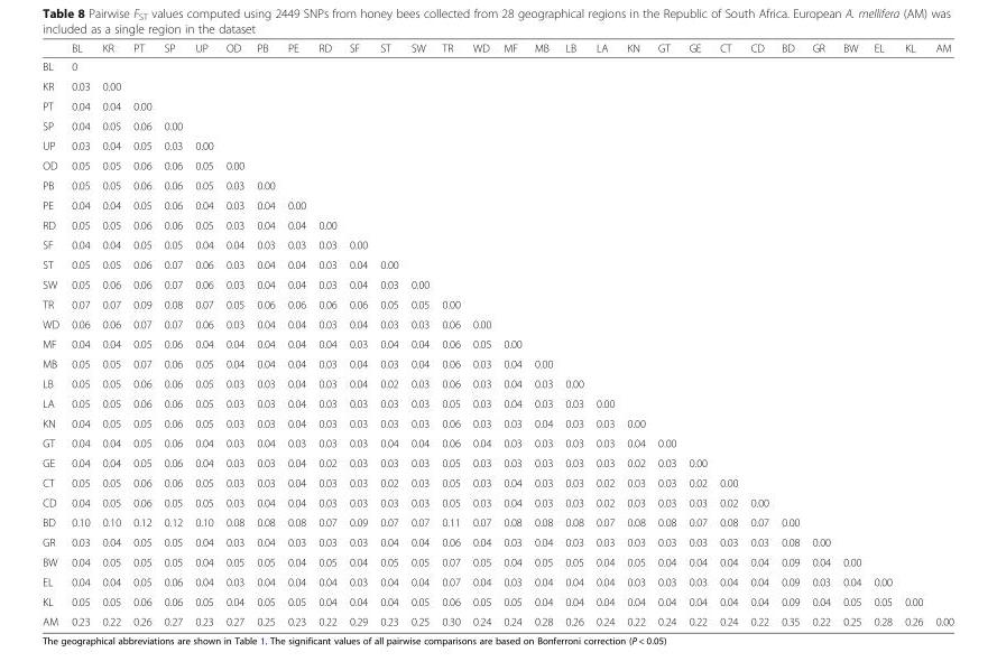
<table><thead><tr><td></td><td>BL</td><td>KR</td><td>PT</td><td>SP</td><td>UP</td><td>OD</td><td>PB</td><td>PE</td><td>RD</td><td>SF</td><td>ST</td><td>SW</td><td>TR</td><td>WD</td><td>MF</td><td>MB</td><td>LB</td><td>LA</td><td>KN</td><td>GT</td><td>GE</td><td>CT</td><td>CD</td><td>BD</td><td>GR</td><td>BW</td><td>EL</td><td>KL</td><td>AM</td></tr></thead><tbody><tr><td>BL</td><td>0</td><td></td><td></td><td></td><td></td><td></td><td></td><td></td><td></td><td></td><td></td><td></td><td></td><td></td><td></td><td></td><td></td><td></td><td></td><td></td><td></td><td></td><td></td><td></td><td></td><td></td><td></td><td></td><td></td></tr><tr><td>KR</td><td>0.03</td><td>0.00</td><td></td><td></td><td></td><td></td><td></td><td></td><td></td><td></td><td></td><td></td><td></td><td></td><td></td><td></td><td></td><td></td><td></td><td></td><td></td><td></td><td></td><td></td><td></td><td></td><td></td><td></td><td></td></tr><tr><td>PT</td><td>0.04</td><td>0.04</td><td>0.00</td><td></td><td></td><td></td><td></td><td></td><td></td><td></td><td></td><td></td><td></td><td></td><td></td><td></td><td></td><td></td><td></td><td></td><td></td><td></td><td></td><td></td><td></td><td></td><td></td><td></td><td></td></tr><tr><td>SP</td><td>0.04</td><td>0.05</td><td>0.06</td><td>0.00</td><td></td><td></td><td></td><td></td><td></td><td></td><td></td><td></td><td></td><td></td><td></td><td></td><td></td><td></td><td></td><td></td><td></td><td></td><td></td><td></td><td></td><td></td><td></td><td></td><td></td></tr><tr><td>UP</td><td>0.03</td><td>0.04</td><td>0.05</td><td>0.03</td><td>0.00</td><td></td><td></td><td></td><td></td><td></td><td></td><td></td><td></td><td></td><td></td><td></td><td></td><td></td><td></td><td></td><td></td><td></td><td></td><td></td><td></td><td></td><td></td><td></td><td></td></tr><tr><td>OD</td><td>0.05</td><td>0.05</td><td>0.06</td><td>0.06</td><td>0.05</td><td>0.00</td><td></td><td></td><td></td><td></td><td></td><td></td><td></td><td></td><td></td><td></td><td></td><td></td><td></td><td></td><td></td><td></td><td></td><td></td><td></td><td></td><td></td><td></td><td></td></tr><tr><td>PB</td><td>0.05</td><td>0.05</td><td>0.06</td><td>0.06</td><td>0.05</td><td>0.03</td><td>0.00</td><td></td><td></td><td></td><td></td><td></td><td></td><td></td><td></td><td></td><td></td><td></td><td></td><td></td><td></td><td></td><td></td><td></td><td></td><td></td><td></td><td></td><td></td></tr><tr><td>PE</td><td>0.04</td><td>0.04</td><td>0.05</td><td>0.06</td><td>0.04</td><td>0.03</td><td>0.04</td><td>0.00</td><td></td><td></td><td></td><td></td><td></td><td></td><td></td><td></td><td></td><td></td><td></td><td></td><td></td><td></td><td></td><td></td><td></td><td></td><td></td><td></td><td></td></tr><tr><td>RD</td><td>0.05</td><td>0.05</td><td>0.06</td><td>0.06</td><td>0.05</td><td>0.03</td><td>0.04</td><td>0.04</td><td>0.00</td><td></td><td></td><td></td><td></td><td></td><td></td><td></td><td></td><td></td><td></td><td></td><td></td><td></td><td></td><td></td><td></td><td></td><td></td><td></td><td></td></tr><tr><td>SF</td><td>0.04</td><td>0.04</td><td>0.05</td><td>0.05</td><td>0.04</td><td>0.04</td><td>0.03</td><td>0.03</td><td>0.03</td><td>0.00</td><td></td><td></td><td></td><td></td><td></td><td></td><td></td><td></td><td></td><td></td><td></td><td></td><td></td><td></td><td></td><td></td><td></td><td></td><td></td></tr><tr><td>ST</td><td>0.05</td><td>0.05</td><td>0.06</td><td>0.07</td><td>0.06</td><td>0.03</td><td>0.04</td><td>0.04</td><td>0.03</td><td>0.04</td><td>0.00</td><td></td><td></td><td></td><td></td><td></td><td></td><td></td><td></td><td></td><td></td><td></td><td></td><td></td><td></td><td></td><td></td><td></td><td></td></tr><tr><td>SW</td><td>0.05</td><td>0.06</td><td>0.06</td><td>0.07</td><td>0.06</td><td>0.03</td><td>0.04</td><td>0.04</td><td>0.03</td><td>0.04</td><td>0.03</td><td>0.00</td><td></td><td></td><td></td><td></td><td></td><td></td><td></td><td></td><td></td><td></td><td></td><td></td><td></td><td></td><td></td><td></td><td></td></tr><tr><td>TR</td><td>0.07</td><td>0.07</td><td>0.09</td><td>0.08</td><td>0.07</td><td>0.05</td><td>0.06</td><td>0.06</td><td>0.06</td><td>0.06</td><td>0.05</td><td>0.05</td><td>0.00</td><td></td><td></td><td></td><td></td><td></td><td></td><td></td><td></td><td></td><td></td><td></td><td></td><td></td><td></td><td></td><td></td></tr><tr><td>WD</td><td>0.06</td><td>0.06</td><td>0.07</td><td>0.07</td><td>0.06</td><td>0.03</td><td>0.04</td><td>0.04</td><td>0.03</td><td>0.04</td><td>0.03</td><td>0.03</td><td>0.06</td><td>0.00</td><td></td><td></td><td></td><td></td><td></td><td></td><td></td><td></td><td></td><td></td><td></td><td></td><td></td><td></td><td></td></tr><tr><td>MF</td><td>0.04</td><td>0.04</td><td>0.05</td><td>0.06</td><td>0.04</td><td>0.04</td><td>0.04</td><td>0.04</td><td>0.04</td><td>0.03</td><td>0.04</td><td>0.04</td><td>0.06</td><td>0.05</td><td>0.00</td><td></td><td></td><td></td><td></td><td></td><td></td><td></td><td></td><td></td><td></td><td></td><td></td><td></td><td></td></tr><tr><td>MB</td><td>0.05</td><td>0.05</td><td>0.07</td><td>0.06</td><td>0.05</td><td>0.04</td><td>0.04</td><td>0.04</td><td>0.03</td><td>0.04</td><td>0.03</td><td>0.04</td><td>0.06</td><td>0.03</td><td>0.04</td><td>0.00</td><td></td><td></td><td></td><td></td><td></td><td></td><td></td><td></td><td></td><td></td><td></td><td></td><td></td></tr><tr><td>LB</td><td>0.05</td><td>0.05</td><td>0.06</td><td>0.06</td><td>0.05</td><td>0.03</td><td>0.03</td><td>0.04</td><td>0.03</td><td>0.04</td><td>0.02</td><td>0.03</td><td>0.06</td><td>0.03</td><td>0.04</td><td>0.03</td><td>0.00</td><td></td><td></td><td></td><td></td><td></td><td></td><td></td><td></td><td></td><td></td><td></td><td></td></tr><tr><td>LA</td><td>0.05</td><td>0.05</td><td>0.06</td><td>0.06</td><td>0.05</td><td>0.03</td><td>0.03</td><td>0.04</td><td>0.03</td><td>0.03</td><td>0.03</td><td>0.03</td><td>0.05</td><td>0.03</td><td>0.04</td><td>0.03</td><td>0.03</td><td>0.00</td><td></td><td></td><td></td><td></td><td></td><td></td><td></td><td></td><td></td><td></td><td></td></tr><tr><td>KN</td><td>0.04</td><td>0.05</td><td>0.05</td><td>0.06</td><td>0.05</td><td>0.03</td><td>0.03</td><td>0.04</td><td>0.03</td><td>0.03</td><td>0.03</td><td>0.03</td><td>0.06</td><td>0.03</td><td>0.03</td><td>0.04</td><td>0.03</td><td>0.03</td><td>0.00</td><td></td><td></td><td></td><td></td><td></td><td></td><td></td><td></td><td></td><td></td></tr><tr><td>GT</td><td>0.04</td><td>0.04</td><td>0.05</td><td>0.06</td><td>0.04</td><td>0.03</td><td>0.04</td><td>0.03</td><td>0.03</td><td>0.03</td><td>0.04</td><td>0.04</td><td>0.06</td><td>0.04</td><td>0.03</td><td>0.03</td><td>0.03</td><td>0.03</td><td>0.04</td><td>0.00</td><td></td><td></td><td></td><td></td><td></td><td></td><td></td><td></td><td></td></tr><tr><td>GE</td><td>0.04</td><td>0.04</td><td>0.05</td><td>0.06</td><td>0.04</td><td>0.03</td><td>0.03</td><td>0.04</td><td>0.02</td><td>0.03</td><td>0.03</td><td>0.03</td><td>0.05</td><td>0.03</td><td>0.03</td><td>0.03</td><td>0.03</td><td>0.03</td><td>0.02</td><td>0.03</td><td>0.00</td><td></td><td></td><td></td><td></td><td></td><td></td><td></td><td></td></tr><tr><td>CT</td><td>0.05</td><td>0.05</td><td>0.06</td><td>0.06</td><td>0.05</td><td>0.03</td><td>0.03</td><td>0.04</td><td>0.03</td><td>0.03</td><td>0.02</td><td>0.03</td><td>0.05</td><td>0.03</td><td>0.04</td><td>0.03</td><td>0.03</td><td>0.02</td><td>0.03</td><td>0.03</td><td>0.02</td><td>0.00</td><td></td><td></td><td></td><td></td><td></td><td></td><td></td></tr><tr><td>CD</td><td>0.04</td><td>0.05</td><td>0.06</td><td>0.05</td><td>0.05</td><td>0.03</td><td>0.04</td><td>0.04</td><td>0.03</td><td>0.03</td><td>0.03</td><td>0.03</td><td>0.05</td><td>0.03</td><td>0.04</td><td>0.03</td><td>0.03</td><td>0.02</td><td>0.03</td><td>0.03</td><td>0.03</td><td>0.02</td><td>0.00</td><td></td><td></td><td></td><td></td><td></td><td></td></tr><tr><td>BD</td><td>0.10</td><td>0.10</td><td>0.12</td><td>0.12</td><td>0.10</td><td>0.08</td><td>0.08</td><td>0.08</td><td>0.07</td><td>0.09</td><td>0.07</td><td>0.07</td><td>0.11</td><td>0.07</td><td>0.08</td><td>0.08</td><td>0.08</td><td>0.07</td><td>0.08</td><td>0.08</td><td>0.07</td><td>0.08</td><td>0.07</td><td>0.00</td><td></td><td></td><td></td><td></td><td></td></tr><tr><td>GR</td><td>0.03</td><td>0.04</td><td>0.05</td><td>0.05</td><td>0.04</td><td>0.03</td><td>0.04</td><td>0.03</td><td>0.03</td><td>0.03</td><td>0.04</td><td>0.04</td><td>0.06</td><td>0.04</td><td>0.03</td><td>0.04</td><td>0.03</td><td>0.03</td><td>0.03</td><td>0.03</td><td>0.03</td><td>0.03</td><td>0.03</td><td>0.08</td><td>0.00</td><td></td><td></td><td></td><td></td></tr><tr><td>BW</td><td>0.04</td><td>0.05</td><td>0.05</td><td>0.05</td><td>0.04</td><td>0.05</td><td>0.05</td><td>0.04</td><td>0.05</td><td>0.04</td><td>0.05</td><td>0.05</td><td>0.07</td><td>0.05</td><td>0.04</td><td>0.05</td><td>0.05</td><td>0.04</td><td>0.05</td><td>0.04</td><td>0.04</td><td>0.04</td><td>0.04</td><td>0.09</td><td>0.04</td><td>0.00</td><td></td><td></td><td></td></tr><tr><td>EL</td><td>0.04</td><td>0.04</td><td>0.05</td><td>0.06</td><td>0.04</td><td>0.03</td><td>0.04</td><td>0.04</td><td>0.04</td><td>0.03</td><td>0.04</td><td>0.04</td><td>0.07</td><td>0.04</td><td>0.03</td><td>0.04</td><td>0.04</td><td>0.04</td><td>0.03</td><td>0.03</td><td>0.03</td><td>0.04</td><td>0.04</td><td>0.09</td><td>0.03</td><td>0.04</td><td>0.00</td><td></td><td></td></tr><tr><td>KL</td><td>0.05</td><td>0.05</td><td>0.06</td><td>0.06</td><td>0.05</td><td>0.04</td><td>0.05</td><td>0.05</td><td>0.04</td><td>0.04</td><td>0.04</td><td>0.05</td><td>0.06</td><td>0.05</td><td>0.05</td><td>0.04</td><td>0.04</td><td>0.04</td><td>0.04</td><td>0.04</td><td>0.04</td><td>0.04</td><td>0.04</td><td>0.09</td><td>0.04</td><td>0.05</td><td>0.05</td><td>0.00</td><td></td></tr><tr><td>AM</td><td>0.23</td><td>0.22</td><td>0.26</td><td>0.27</td><td>0.23</td><td>0.27</td><td>0.25</td><td>0.23</td><td>0.22</td><td>0.29</td><td>0.23</td><td>0.25</td><td>0.30</td><td>0.24</td><td>0.24</td><td>0.28</td><td>0.26</td><td>0.24</td><td>0.22</td><td>0.24</td><td>0.22</td><td>0.24</td><td>0.22</td><td>0.35</td><td>0.22</td><td>0.25</td><td>0.28</td><td>0.26</td><td>0.00</td></tr></tbody></table>